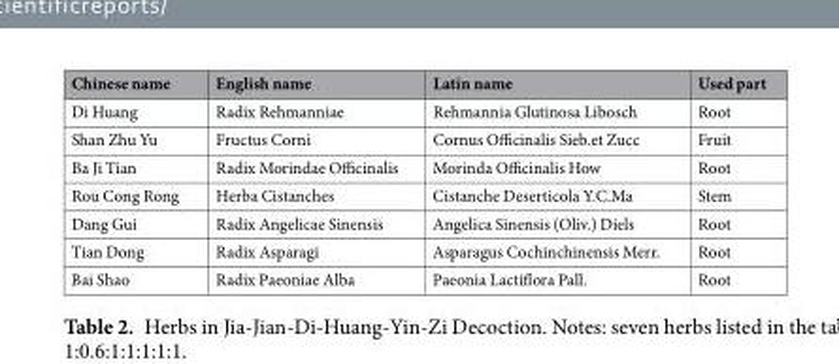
<table><thead><tr><td>Chinese name</td><td>English name</td><td>Latin name</td><td>Used part</td></tr></thead><tbody><tr><td>Di Huang</td><td>Radix Rehmanniae</td><td>Rehmannia Glutinosa Libosch</td><td>Root</td></tr><tr><td>Shan Zhu Yu</td><td>Fructus Corni</td><td>Cornus Officinalis Sieb.et Zucc</td><td>Fruit</td></tr><tr><td>Ba Ji Tian</td><td>Radix Morindae Officinalis</td><td>Morinda Officinalis How</td><td>Root</td></tr><tr><td>Rou Cong Rong</td><td>Herba Cistanches</td><td>Cistanche Deserticola Y.C.Ma</td><td>Stem</td></tr><tr><td>Dang Gui</td><td>Radix Angelicae Sinensis</td><td>Angelica Sinensis (Oliv.) Diels</td><td>Root</td></tr><tr><td>Tian Dong</td><td>Radix Asparagi</td><td>Asparagus Cochinchinensis Merr.</td><td>Root</td></tr><tr><td>Bai Shao</td><td>Radix Paeoniae Alba</td><td>Paeonia Lactiflora Pall.</td><td>Root</td></tr></tbody></table>